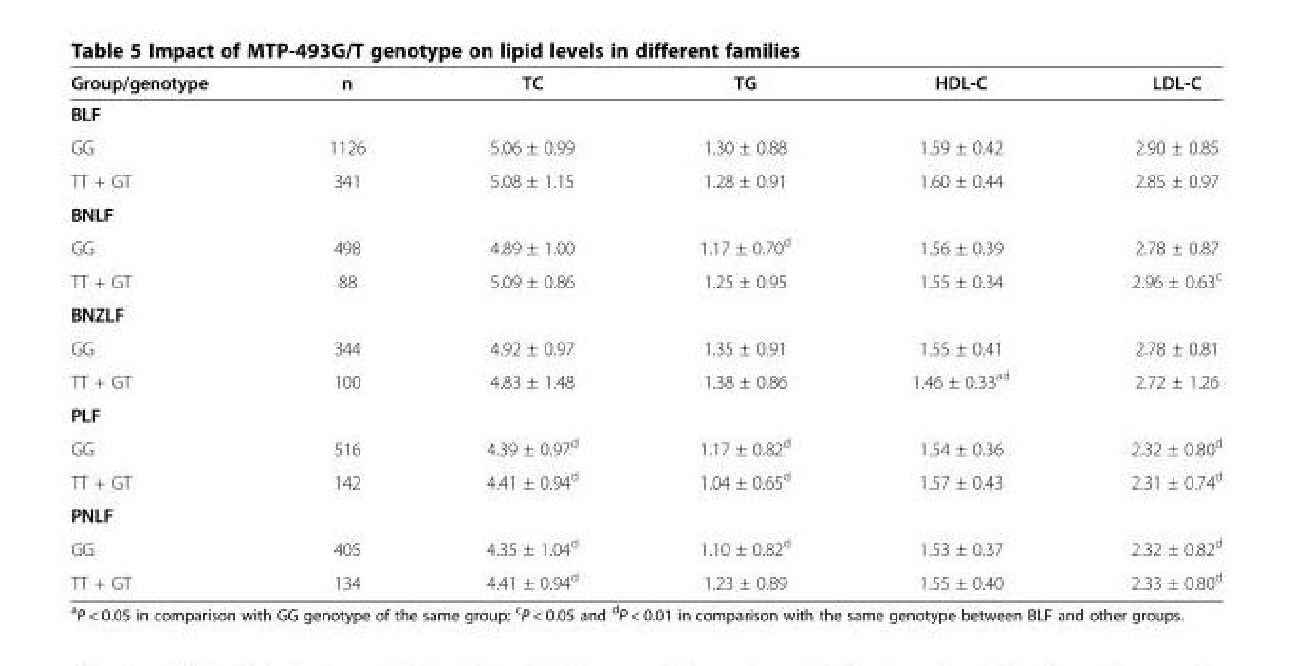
<table><thead><tr><td>Group/genotype</td><td>n</td><td>TC</td><td>TG</td><td>HDL-C</td><td>LDL-C</td></tr></thead><tbody><tr><td colspan="6">BLF</td></tr><tr><td>GG</td><td>1126</td><td>5.06 ± 0.99</td><td>1.30 ± 0.88</td><td>1.59 ± 0.42</td><td>2.90 ± 0.85</td></tr><tr><td>TT + GT</td><td>341</td><td>5.08 ± 1.15</td><td>1.28 ± 0.91</td><td>1.60 ± 0.44</td><td>2.85 ± 0.97</td></tr><tr><td colspan="6">BNLF</td></tr><tr><td>GG</td><td>498</td><td>4.89 ± 1.00</td><td>1.17 ± 0.70<sup>d</sup></td><td>1.56 ± 0.39</td><td>2.78 ± 0.87</td></tr><tr><td>TT + GT</td><td>88</td><td>5.09 ± 0.86</td><td>1.25 ± 0.95</td><td>1.55 ± 0.34</td><td>2.96 ± 0.63<sup>c</sup></td></tr><tr><td colspan="6">BNZLF</td></tr><tr><td>GG</td><td>344</td><td>4.92 ± 0.97</td><td>1.35 ± 0.91</td><td>1.55 ± 0.41</td><td>2.78 ± 0.81</td></tr><tr><td>TT + GT</td><td>100</td><td>4.83 ± 1.48</td><td>1.38 ± 0.86</td><td>1.46 ± 0.33<sup>ad</sup></td><td>2.72 ± 1.26</td></tr><tr><td colspan="6">PLF</td></tr><tr><td>GG</td><td>516</td><td>4.39 ± 0.97<sup>d</sup></td><td>1.17 ± 0.82<sup>d</sup></td><td>1.54 ± 0.36</td><td>2.32 ± 0.80<sup>d</sup></td></tr><tr><td>TT + GT</td><td>142</td><td>4.41 ± 0.94<sup>d</sup></td><td>1.04 ± 0.65<sup>d</sup></td><td>1.57 ± 0.43</td><td>2.31 ± 0.74<sup>d</sup></td></tr><tr><td colspan="6">PNLF</td></tr><tr><td>GG</td><td>405</td><td>4.35 ± 1.04<sup>d</sup></td><td>1.10 ± 0.82<sup>d</sup></td><td>1.53 ± 0.37</td><td>2.32 ± 0.82<sup>d</sup></td></tr><tr><td>TT + GT</td><td>134</td><td>4.41 ± 0.94<sup>d</sup></td><td>1.23 ± 0.89</td><td>1.55 ± 0.40</td><td>2.33 ± 0.80<sup>d</sup></td></tr></tbody></table>